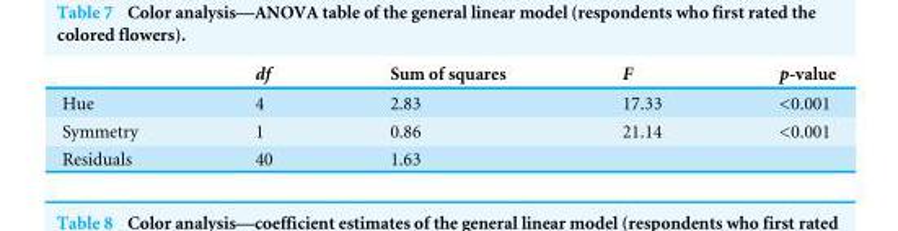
<table><thead><tr><td></td><td>df</td><td>Sum of squares</td><td>F</td><td>p-value</td></tr></thead><tbody><tr><td>Hue</td><td>4</td><td>2.83</td><td>17.33</td><td>&lt;0.001</td></tr><tr><td>Symmetry</td><td>1</td><td>0.86</td><td>21.14</td><td>&lt;0.001</td></tr><tr><td>Residuals</td><td>40</td><td>1.63</td><td></td><td></td></tr></tbody></table>